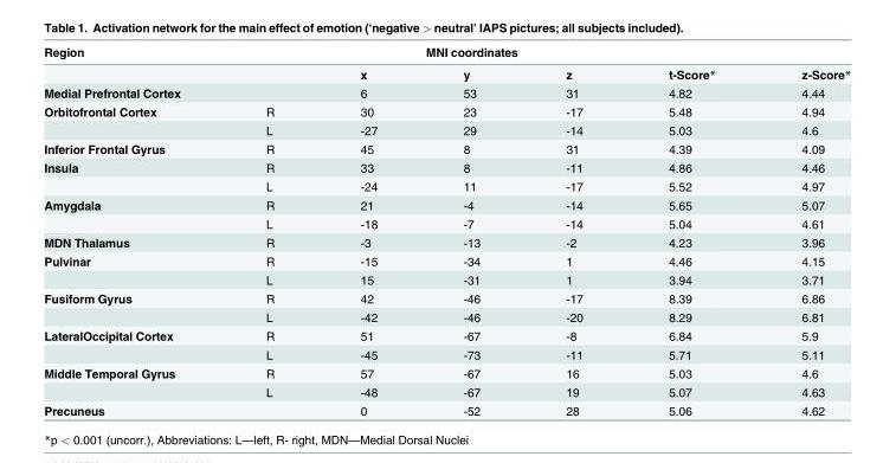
<table><thead><tr><td rowspan="2">Region</td><td rowspan="2"></td><td colspan="3">MNI coordinates</td><td rowspan="2">t-Score*</td><td rowspan="2">z-Score*</td></tr><tr><td>x</td><td>y</td><td>z</td></tr></thead><tbody><tr><td>Medial Prefrontal Cortex</td><td></td><td>6</td><td>53</td><td>31</td><td>4.82</td><td>4.44</td></tr><tr><td rowspan="2">Orbitofrontal Cortex</td><td>R</td><td>30</td><td>23</td><td>-17</td><td>5.48</td><td>4.94</td></tr><tr><td>L</td><td>-27</td><td>29</td><td>-14</td><td>5.03</td><td>4.6</td></tr><tr><td>Inferior Frontal Gyrus</td><td>R</td><td>45</td><td>8</td><td>31</td><td>4.39</td><td>4.09</td></tr><tr><td rowspan="2">Insula</td><td>R</td><td>33</td><td>8</td><td>-11</td><td>4.86</td><td>4.46</td></tr><tr><td>L</td><td>-24</td><td>11</td><td>-17</td><td>5.52</td><td>4.97</td></tr><tr><td rowspan="2">Amygdala</td><td>R</td><td>21</td><td>-4</td><td>-14</td><td>5.65</td><td>5.07</td></tr><tr><td>L</td><td>-18</td><td>-7</td><td>-14</td><td>5.04</td><td>4.61</td></tr><tr><td>MDN Thalamus</td><td>R</td><td>-3</td><td>-13</td><td>-2</td><td>4.23</td><td>3.96</td></tr><tr><td rowspan="2">Pulvinar</td><td>R</td><td>-15</td><td>-34</td><td>1</td><td>4.46</td><td>4.15</td></tr><tr><td>L</td><td>15</td><td>-31</td><td>1</td><td>3.94</td><td>3.71</td></tr><tr><td rowspan="2">Fusiform Gyrus</td><td>R</td><td>42</td><td>-46</td><td>-17</td><td>8.39</td><td>6.86</td></tr><tr><td>L</td><td>-42</td><td>-46</td><td>-20</td><td>8.29</td><td>6.81</td></tr><tr><td rowspan="2">LateralOccipital Cortex</td><td>R</td><td>51</td><td>-67</td><td>-8</td><td>6.84</td><td>5.9</td></tr><tr><td>L</td><td>-45</td><td>-73</td><td>-11</td><td>5.71</td><td>5.11</td></tr><tr><td rowspan="2">Middle Temporal Gyrus</td><td>R</td><td>57</td><td>-67</td><td>16</td><td>5.03</td><td>4.6</td></tr><tr><td>L</td><td>-48</td><td>-67</td><td>19</td><td>5.07</td><td>4.63</td></tr><tr><td>Precuneus</td><td></td><td>0</td><td>-52</td><td>28</td><td>5.06</td><td>4.62</td></tr></tbody></table>